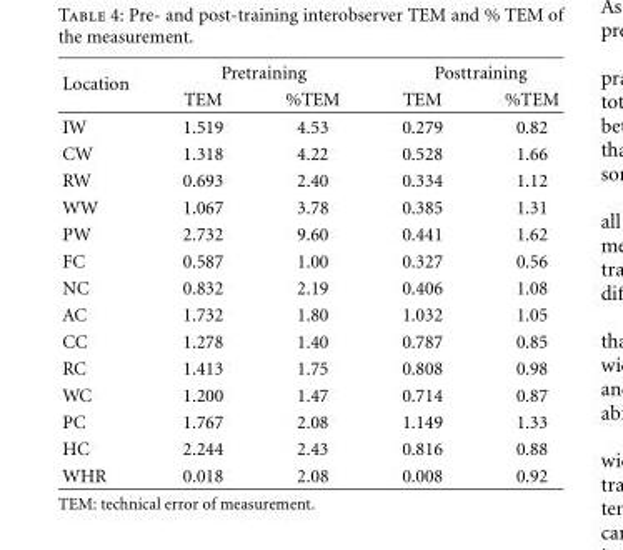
<table><thead><tr><td rowspan="2">Location</td><td colspan="2">Pretraining</td><td colspan="2">Posttraining</td></tr><tr><td>TEM</td><td>%TEM</td><td>TEM</td><td>%TEM</td></tr></thead><tbody><tr><td>IW</td><td>1.519</td><td>4.53</td><td>0.279</td><td>0.82</td></tr><tr><td>CW</td><td>1.318</td><td>4.22</td><td>0.528</td><td>1.66</td></tr><tr><td>RW</td><td>0.693</td><td>2.40</td><td>0.334</td><td>1.12</td></tr><tr><td>WW</td><td>1.067</td><td>3.78</td><td>0.385</td><td>1.31</td></tr><tr><td>PW</td><td>2.732</td><td>9.60</td><td>0.441</td><td>1.62</td></tr><tr><td>FC</td><td>0.587</td><td>1.00</td><td>0.327</td><td>0.56</td></tr><tr><td>NC</td><td>0.832</td><td>2.19</td><td>0.406</td><td>1.08</td></tr><tr><td>AC</td><td>1.732</td><td>1.80</td><td>1.032</td><td>1.05</td></tr><tr><td>CC</td><td>1.278</td><td>1.40</td><td>0.787</td><td>0.85</td></tr><tr><td>RC</td><td>1.413</td><td>1.75</td><td>0.808</td><td>0.98</td></tr><tr><td>WC</td><td>1.200</td><td>1.47</td><td>0.714</td><td>0.87</td></tr><tr><td>PC</td><td>1.767</td><td>2.08</td><td>1.149</td><td>1.33</td></tr><tr><td>HC</td><td>2.244</td><td>2.43</td><td>0.816</td><td>0.88</td></tr><tr><td>WHR</td><td>0.018</td><td>2.08</td><td>0.008</td><td>0.92</td></tr></tbody></table>